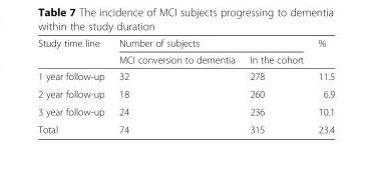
<table><thead><tr><td rowspan="2">Study time line</td><td colspan="2">Number of subjects</td><td rowspan="2">%</td></tr><tr><td>MCI conversion to dementia</td><td>In the cohort</td></tr></thead><tbody><tr><td>1 year follow-up</td><td>32</td><td>278</td><td>11.5</td></tr><tr><td>2 year follow-up</td><td>18</td><td>260</td><td>6.9</td></tr><tr><td>3 year follow-up</td><td>24</td><td>236</td><td>10.1</td></tr><tr><td>Total</td><td>74</td><td>315</td><td>23.4</td></tr></tbody></table>